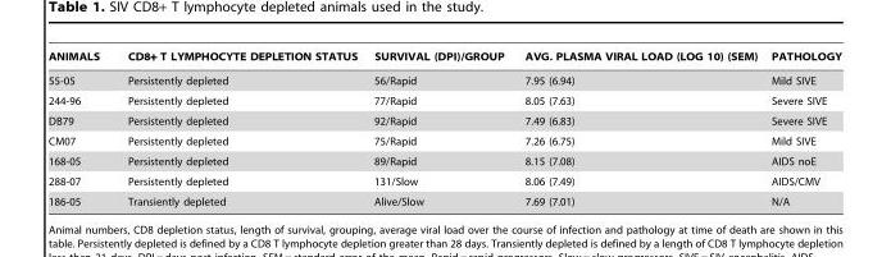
<table><thead><tr><td>ANIMALS</td><td>CD8+ T LYMPHOCYTE DEPLETION STATUS</td><td>SURVIVAL (DPI)/GROUP</td><td>AVG. PLASMA VIRAL LOAD (LOG 10) (SEM)</td><td>PATHOLOGY</td></tr></thead><tbody><tr><td>55-05</td><td>Persistently depleted</td><td>56/Rapid</td><td>7.95 (6.94)</td><td>Mild SIVE</td></tr><tr><td>244-96</td><td>Persistently depleted</td><td>77/Rapid</td><td>8.05 (7.63)</td><td>Severe SIVE</td></tr><tr><td>DB79</td><td>Persistently depleted</td><td>92/Rapid</td><td>7.49 (6.83)</td><td>Severe SIVE</td></tr><tr><td>CM07</td><td>Persistently depleted</td><td>75/Rapid</td><td>7.26 (6.75)</td><td>Mild SIVE</td></tr><tr><td>168-05</td><td>Persistently depleted</td><td>89/Rapid</td><td>8.15 (7.08)</td><td>AIDS noE</td></tr><tr><td>288-07</td><td>Persistently depleted</td><td>131/Slow</td><td>8.06 (7.49)</td><td>AIDS/CMV</td></tr><tr><td>186-05</td><td>Transiently depleted</td><td>Alive/Slow</td><td>7.69 (7.01)</td><td>N/A</td></tr></tbody></table>